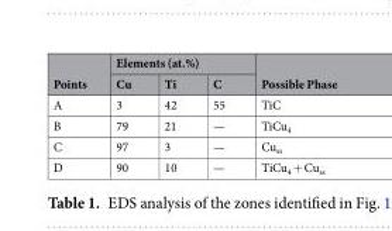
<table><thead><tr><td rowspan="2">Points</td><td colspan="3">Elements (at.%)</td><td rowspan="2">Possible Phase</td></tr><tr><td>Cu</td><td>Ti</td><td>C</td></tr></thead><tbody><tr><td>A</td><td>3</td><td>42</td><td>55</td><td>TiC</td></tr><tr><td>B</td><td>79</td><td>21</td><td>—</td><td>TiCu<sub>4</sub></td></tr><tr><td>C</td><td>97</td><td>3</td><td>—</td><td>Cu<sub>ss</sub></td></tr><tr><td>D</td><td>90</td><td>10</td><td>—</td><td>TiCu<sub>4</sub> + Cu<sub>ss</sub></td></tr></tbody></table>